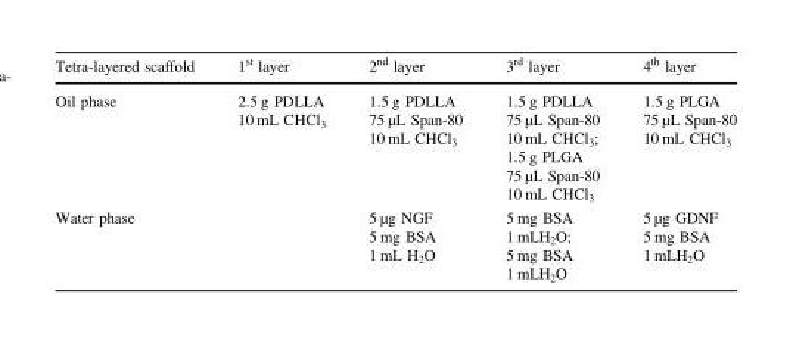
<table><thead><tr><td>Tetra-layered scaffold</td><td>1<sup>st</sup> layer</td><td>2<sup>nd</sup> layer</td><td>3<sup>rd</sup> layer</td><td>4<sup>th</sup> layer</td></tr></thead><tbody><tr><td>Oil phase</td><td>2.5 g PDLLA 10 mL CHCl<sub>3</sub></td><td>1.5 g PDLLA 75 µL Span-80 10 mL CHCl<sub>3</sub></td><td>1.5 g PDLLA 75 µL Span-80 10 mL CHCl<sub>3</sub>; 1.5 g PLGA 75 µL Span-80 10 mL CHCl<sub>3</sub></td><td>1.5 g PLGA 75 µL Span-80 10 mL CHCl<sub>3</sub></td></tr><tr><td>Water phase</td><td></td><td>5 µg NGF 5 mg BSA 1 mL H<sub>2</sub>O</td><td>5 mg BSA 1 mLH<sub>2</sub>O; 5 mg BSA 1 mLH<sub>2</sub>O</td><td>5 µg GDNF 5 mg BSA 1 mLH<sub>2</sub>O</td></tr></tbody></table>